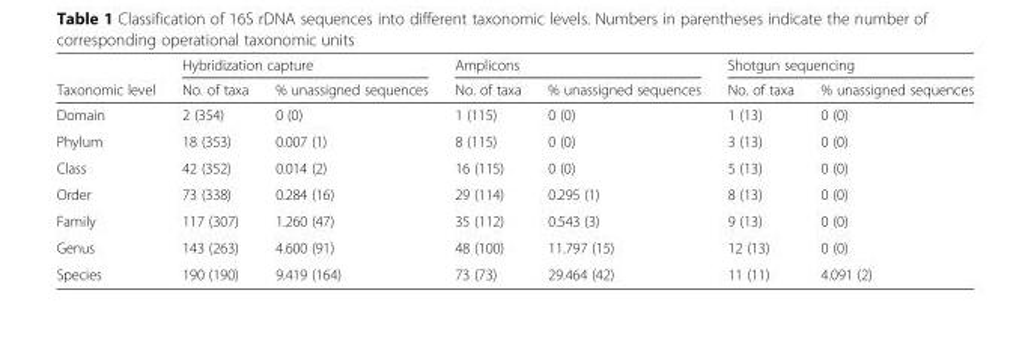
<table><thead><tr><td rowspan="2">Taxonomic level</td><td colspan="2">Hybridization capture</td><td colspan="2">Amplicons</td><td colspan="2">Shotgun sequencing</td></tr><tr><td>No. of taxa</td><td>% unassigned sequences</td><td>No. of taxa</td><td>% unassigned sequences</td><td>No. of taxa</td><td>% unassigned sequences</td></tr></thead><tbody><tr><td>Domain</td><td>2 (354)</td><td>0 (0)</td><td>1 (115)</td><td>0 (0)</td><td>1 (13)</td><td>0 (0)</td></tr><tr><td>Phylum</td><td>18 (353)</td><td>0.007 (1)</td><td>8 (115)</td><td>0 (0)</td><td>3 (13)</td><td>0 (0)</td></tr><tr><td>Class</td><td>42 (352)</td><td>0.014 (2)</td><td>16 (115)</td><td>0 (0)</td><td>5 (13)</td><td>0 (0)</td></tr><tr><td>Order</td><td>73 (338)</td><td>0.284 (16)</td><td>29 (114)</td><td>0.295 (1)</td><td>8 (13)</td><td>0 (0)</td></tr><tr><td>Family</td><td>117 (307)</td><td>1.260 (47)</td><td>35 (112)</td><td>0.543 (3)</td><td>9 (13)</td><td>0 (0)</td></tr><tr><td>Genus</td><td>143 (263)</td><td>4.600 (91)</td><td>48 (100)</td><td>11.797 (15)</td><td>12 (13)</td><td>0 (0)</td></tr><tr><td>Species</td><td>190 (190)</td><td>9.419 (164)</td><td>73 (73)</td><td>29.464 (42)</td><td>11 (11)</td><td>4.091 (2)</td></tr></tbody></table>